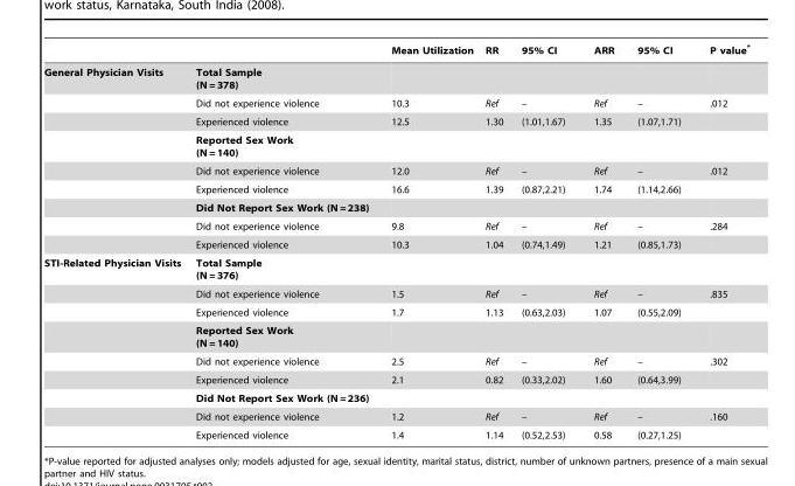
<table><thead><tr><td></td><td></td><td>Mean Utilization</td><td>RR</td><td>95% CI</td><td>ARR</td><td>95% CI</td><td>P value*</td></tr></thead><tbody><tr><td rowspan="9">General Physician Visits</td><td>Total Sample (N = 378)</td><td></td><td></td><td></td><td></td><td></td><td></td></tr><tr><td>Did not experience violence</td><td>10.3</td><td>Ref</td><td>–</td><td>Ref</td><td>–</td><td>.012</td></tr><tr><td>Experienced violence</td><td>12.5</td><td>1.30</td><td>(1.01,1.67)</td><td>1.35</td><td>(1.07,1.71)</td><td></td></tr><tr><td>Reported Sex Work (N = 140)</td><td></td><td></td><td></td><td></td><td></td><td></td></tr><tr><td>Did not experience violence</td><td>12.0</td><td>Ref</td><td>–</td><td>Ref</td><td>–</td><td>.012</td></tr><tr><td>Experienced violence</td><td>16.6</td><td>1.39</td><td>(0.87,2.21)</td><td>1.74</td><td>(1.14,2.66)</td><td></td></tr><tr><td>Did Not Report Sex Work (N = 238)</td><td></td><td></td><td></td><td></td><td></td><td></td></tr><tr><td>Did not experience violence</td><td>9.8</td><td>Ref</td><td>–</td><td>Ref</td><td>–</td><td>.284</td></tr><tr><td>Experienced violence</td><td>10.3</td><td>1.04</td><td>(0.74,1.49)</td><td>1.21</td><td>(0.85,1.73)</td><td></td></tr><tr><td rowspan="9">STI-Related Physician Visits</td><td>Total Sample (N = 376)</td><td></td><td></td><td></td><td></td><td></td><td></td></tr><tr><td>Did not experience violence</td><td>1.5</td><td>Ref</td><td>–</td><td>Ref</td><td>–</td><td>.835</td></tr><tr><td>Experienced violence</td><td>1.7</td><td>1.13</td><td>(0.63,2.03)</td><td>1.07</td><td>(0.55,2.09)</td><td></td></tr><tr><td>Reported Sex Work (N = 140)</td><td></td><td></td><td></td><td></td><td></td><td></td></tr><tr><td>Did not experience violence</td><td>2.5</td><td>Ref</td><td>–</td><td>Ref</td><td>–</td><td>.302</td></tr><tr><td>Experienced violence</td><td>2.1</td><td>0.82</td><td>(0.33,2.02)</td><td>1.60</td><td>(0.64,3.99)</td><td></td></tr><tr><td>Did Not Report Sex Work (N = 236)</td><td></td><td></td><td></td><td></td><td></td><td></td></tr><tr><td>Did not experience violence</td><td>1.2</td><td>Ref</td><td>–</td><td>Ref</td><td>–</td><td>.160</td></tr><tr><td>Experienced violence</td><td>1.4</td><td>1.14</td><td>(0.52,2.53)</td><td>0.58</td><td>(0.27,1.25)</td><td></td></tr></tbody></table>